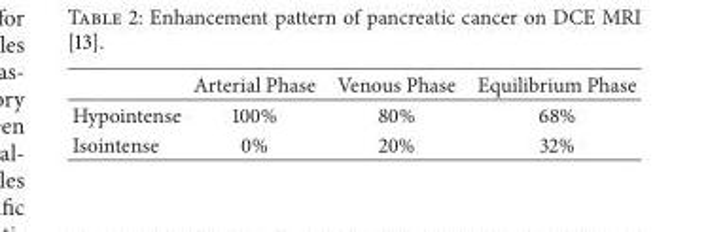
<table><thead><tr><td></td><td>Arterial Phase</td><td>Venous Phase</td><td>Equilibrium Phase</td></tr></thead><tbody><tr><td>Hypointense</td><td>100%</td><td>80%</td><td>68%</td></tr><tr><td>Isointense</td><td>0%</td><td>20%</td><td>32%</td></tr></tbody></table>